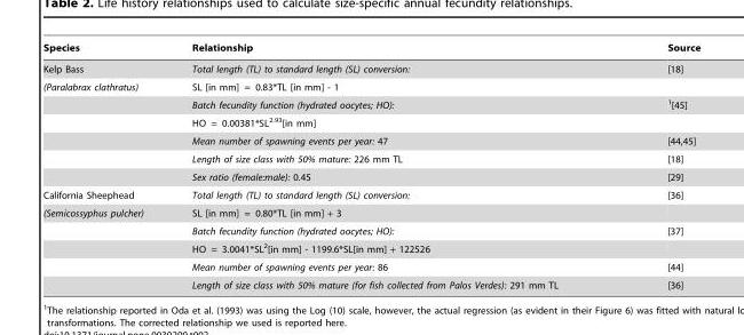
<table><thead><tr><td>Species</td><td>Relationship</td><td>Source</td></tr></thead><tbody><tr><td>Kelp Bass</td><td>Total length (TL) to standard length (SL) conversion:</td><td>[18]</td></tr><tr><td rowspan="6">(Paralabrax clathratus)</td><td>SL [in mm] = 0.83*TL [in mm] - 1</td><td></td></tr><tr><td>Batch fecundity function (hydrated oocytes; HO):</td><td>1[45]</td></tr><tr><td>HO = 0.00381*SL<sup>2.93</sup>[in mm]</td><td></td></tr><tr><td>Mean number of spawning events per year: 47</td><td>[44,45]</td></tr><tr><td>Length of size class with 50% mature: 226 mm TL</td><td>[18]</td></tr><tr><td>Sex ratio (female:male): 0.45</td><td>[29]</td></tr><tr><td>California Sheephead</td><td>Total length (TL) to standard length (SL) conversion:</td><td>[36]</td></tr><tr><td rowspan="5">(Semicossyphus pulcher)</td><td>SL [in mm] = 0.80*TL [in mm] + 3</td><td></td></tr><tr><td>Batch fecundity function (hydrated oocytes; HO):</td><td>[37]</td></tr><tr><td>HO = 3.0041*SL<sup>2</sup>[in mm] - 1199.6*SL[in mm] + 122526</td><td></td></tr><tr><td>Mean number of spawning events per year: 86</td><td>[44]</td></tr><tr><td>Length of size class with 50% mature (for fish collected from Palos Verdes): 291 mm TL</td><td>[36]</td></tr></tbody></table>